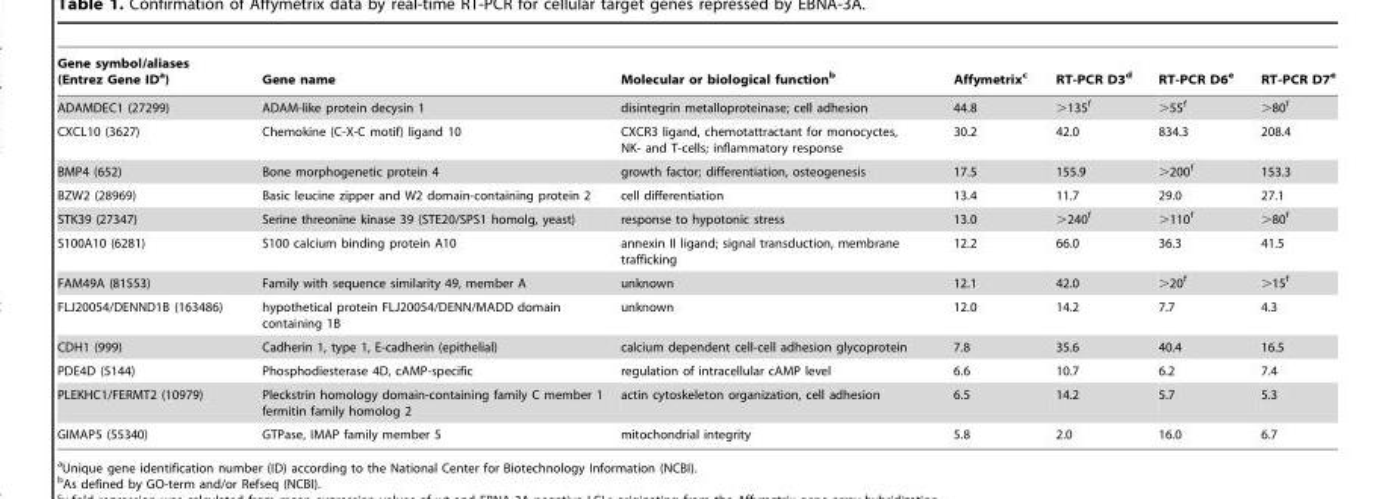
<table><thead><tr><td>Gene symbol/aliases (Entrez Gene ID<sup>a</sup>)</td><td>Gene name</td><td>Molecular or biological function<sup>b</sup></td><td>Affymetrix<sup>c</sup></td><td>RT-PCR D3<sup>d</sup></td><td>RT-PCR D6<sup>e</sup></td><td>RT-PCR D7<sup>e</sup></td></tr></thead><tbody><tr><td>ADAMDEC1 (27299)</td><td>ADAM-like protein decysin 1</td><td>disintegrin metalloproteinase; cell adhesion</td><td>44.8</td><td>&gt;135<sup>f</sup></td><td>&gt;55<sup>f</sup></td><td>&gt;80<sup>f</sup></td></tr><tr><td>CXCL10 (3627)</td><td>Chemokine (C-X-C motif) ligand 10</td><td>CXCR3 ligand, chemotattractant for monocyctes, NK- and T-cells; inflammatory response</td><td>30.2</td><td>42.0</td><td>834.3</td><td>208.4</td></tr><tr><td>BMP4 (652)</td><td>Bone morphogenetic protein 4</td><td>growth factor; differentiation, osteogenesis</td><td>17.5</td><td>155.9</td><td>&gt;200<sup>f</sup></td><td>153.3</td></tr><tr><td>BZW2 (28969)</td><td>Basic leucine zipper and W2 domain-containing protein 2</td><td>cell differentiation</td><td>13.4</td><td>11.7</td><td>29.0</td><td>27.1</td></tr><tr><td>STK39 (27347)</td><td>Serine threonine kinase 39 (STE20/SPS1 homolg, yeast)</td><td>response to hypotonic stress</td><td>13.0</td><td>&gt;240<sup>f</sup></td><td>&gt;110<sup>f</sup></td><td>&gt;80<sup>f</sup></td></tr><tr><td>S100A10 (6281)</td><td>S100 calcium binding protein A10</td><td>annexin II ligand; signal transduction, membrane trafficking</td><td>12.2</td><td>66.0</td><td>36.3</td><td>41.5</td></tr><tr><td>FAM49A (81553)</td><td>Family with sequence similarity 49, member A</td><td>unknown</td><td>12.1</td><td>42.0</td><td>&gt;20<sup>f</sup></td><td>&gt;15<sup>f</sup></td></tr><tr><td>FLJ20054/DENND1B (163486)</td><td>hypothetical protein FLJ20054/DENN/MADD domain containing 1B</td><td>unknown</td><td>12.0</td><td>14.2</td><td>7.7</td><td>4.3</td></tr><tr><td>CDH1 (999)</td><td>Cadherin 1, type 1, E-cadherin (epithelial)</td><td>calcium dependent cell-cell adhesion glycoprotein</td><td>7.8</td><td>35.6</td><td>40.4</td><td>16.5</td></tr><tr><td>PDE4D (5144)</td><td>Phosphodiesterase 4D, cAMP-specific</td><td>regulation of intracellular cAMP level</td><td>6.6</td><td>10.7</td><td>6.2</td><td>7.4</td></tr><tr><td>PLEKHC1/FERMT2 (10979)</td><td>Pleckstrin homology domain-containing family C member 1 fermitin family homolog 2</td><td>actin cytoskeleton organization, cell adhesion</td><td>6.5</td><td>14.2</td><td>5.7</td><td>5.3</td></tr><tr><td>GIMAP5 (55340)</td><td>GTPase, IMAP family member 5</td><td>mitochondrial integrity</td><td>5.8</td><td>2.0</td><td>16.0</td><td>6.7</td></tr></tbody></table>